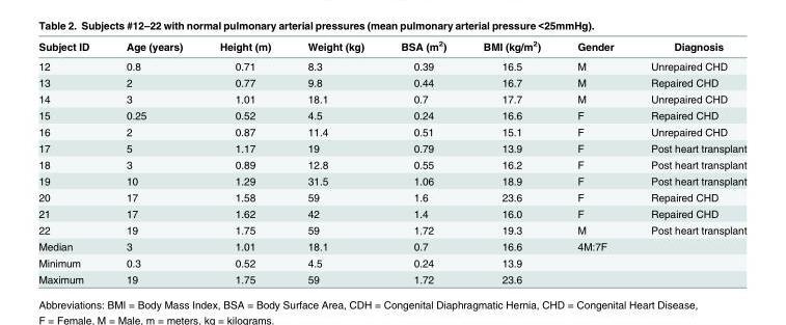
<table><thead><tr><td>Subject ID</td><td>Age (years)</td><td>Height (m)</td><td>Weight (kg)</td><td>BSA (m<sup>2</sup>)</td><td>BMI (kg/m<sup>2</sup>)</td><td>Gender</td><td>Diagnosis</td></tr></thead><tbody><tr><td>12</td><td>0.8</td><td>0.71</td><td>8.3</td><td>0.39</td><td>16.5</td><td>M</td><td>Unrepaired CHD</td></tr><tr><td>13</td><td>2</td><td>0.77</td><td>9.8</td><td>0.44</td><td>16.7</td><td>M</td><td>Repaired CHD</td></tr><tr><td>14</td><td>3</td><td>1.01</td><td>18.1</td><td>0.7</td><td>17.7</td><td>M</td><td>Unrepaired CHD</td></tr><tr><td>15</td><td>0.25</td><td>0.52</td><td>4.5</td><td>0.24</td><td>16.6</td><td>F</td><td>Repaired CHD</td></tr><tr><td>16</td><td>2</td><td>0.87</td><td>11.4</td><td>0.51</td><td>15.1</td><td>F</td><td>Unrepaired CHD</td></tr><tr><td>17</td><td>5</td><td>1.17</td><td>19</td><td>0.79</td><td>13.9</td><td>F</td><td>Post heart transplant</td></tr><tr><td>18</td><td>3</td><td>0.89</td><td>12.8</td><td>0.55</td><td>16.2</td><td>F</td><td>Post heart transplant</td></tr><tr><td>19</td><td>10</td><td>1.29</td><td>31.5</td><td>1.06</td><td>18.9</td><td>F</td><td>Post heart transplant</td></tr><tr><td>20</td><td>17</td><td>1.58</td><td>59</td><td>1.6</td><td>23.6</td><td>F</td><td>Repaired CHD</td></tr><tr><td>21</td><td>17</td><td>1.62</td><td>42</td><td>1.4</td><td>16.0</td><td>F</td><td>Repaired CHD</td></tr><tr><td>22</td><td>19</td><td>1.75</td><td>59</td><td>1.72</td><td>19.3</td><td>M</td><td>Post heart transplant</td></tr><tr><td>Median</td><td>3</td><td>1.01</td><td>18.1</td><td>0.7</td><td>16.6</td><td>4M:7F</td><td></td></tr><tr><td>Minimum</td><td>0.3</td><td>0.52</td><td>4.5</td><td>0.24</td><td>13.9</td><td></td><td></td></tr><tr><td>Maximum</td><td>19</td><td>1.75</td><td>59</td><td>1.72</td><td>23.6</td><td></td><td></td></tr></tbody></table>